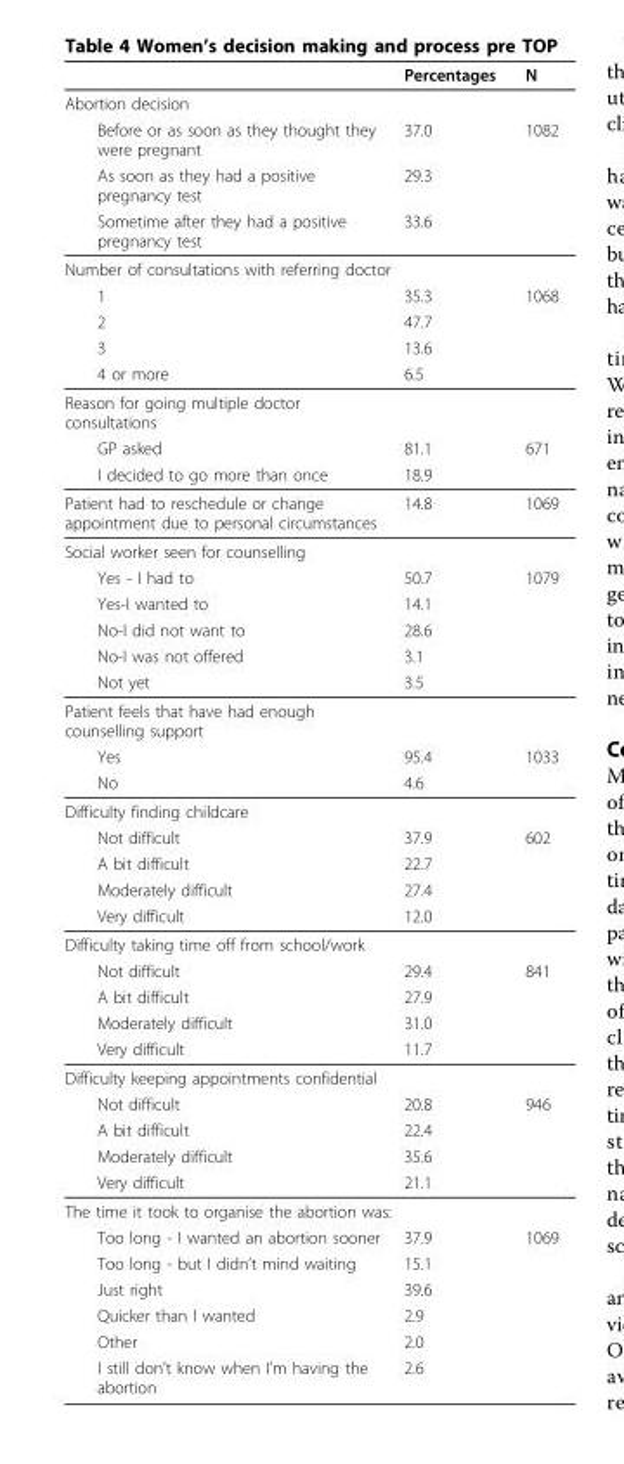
<table><thead><tr><td></td><td>Percentages</td><td>N</td></tr></thead><tbody><tr><td colspan="3">Abortion decision</td></tr><tr><td>Before or as soon as they thought they were pregnant</td><td>37.0</td><td>1082</td></tr><tr><td>As soon as they had a positive pregnancy test</td><td>29.3</td><td></td></tr><tr><td>Sometime after they had a positive pregnancy test</td><td>33.6</td><td></td></tr><tr><td colspan="3">Number of consultations with referring doctor</td></tr><tr><td>1</td><td>35.3</td><td>1068</td></tr><tr><td>2</td><td>47.7</td><td></td></tr><tr><td>3</td><td>13.6</td><td></td></tr><tr><td>4 or more</td><td>6.5</td><td></td></tr><tr><td colspan="3">Reason for going multiple doctor consultations</td></tr><tr><td>GP asked</td><td>81.1</td><td>671</td></tr><tr><td>I decided to go more than once</td><td>18.9</td><td></td></tr><tr><td>Patient had to reschedule or change appointment due to personal circumstances</td><td>14.8</td><td>1069</td></tr><tr><td colspan="3">Social worker seen for counselling</td></tr><tr><td>Yes - I had to</td><td>50.7</td><td>1079</td></tr><tr><td>Yes-I wanted to</td><td>14.1</td><td></td></tr><tr><td>No-I did not want to</td><td>28.6</td><td></td></tr><tr><td>No-I was not offered</td><td>3.1</td><td></td></tr><tr><td>Not yet</td><td>3.5</td><td></td></tr><tr><td colspan="3">Patient feels that have had enough counselling support</td></tr><tr><td>Yes</td><td>95.4</td><td>1033</td></tr><tr><td>No</td><td>4.6</td><td></td></tr><tr><td colspan="3">Difficulty finding childcare</td></tr><tr><td>Not difficult</td><td>37.9</td><td>602</td></tr><tr><td>A bit difficult</td><td>22.7</td><td></td></tr><tr><td>Moderately difficult</td><td>27.4</td><td></td></tr><tr><td>Very difficult</td><td>12.0</td><td></td></tr><tr><td colspan="3">Difficulty taking time off from school/work</td></tr><tr><td>Not difficult</td><td>29.4</td><td>841</td></tr><tr><td>A bit difficult</td><td>27.9</td><td></td></tr><tr><td>Moderately difficult</td><td>31.0</td><td></td></tr><tr><td>Very difficult</td><td>11.7</td><td></td></tr><tr><td colspan="3">Difficulty keeping appointments confidential</td></tr><tr><td>Not difficult</td><td>20.8</td><td>946</td></tr><tr><td>A bit difficult</td><td>22.4</td><td></td></tr><tr><td>Moderately difficult</td><td>35.6</td><td></td></tr><tr><td>Very difficult</td><td>21.1</td><td></td></tr><tr><td colspan="3">The time it took to organise the abortion was:</td></tr><tr><td>Too long - I wanted an abortion sooner</td><td>37.9</td><td>1069</td></tr><tr><td>Too long - but I didn’t mind waiting</td><td>15.1</td><td></td></tr><tr><td>Just right</td><td>39.6</td><td></td></tr><tr><td>Quicker than I wanted</td><td>2.9</td><td></td></tr><tr><td>Other</td><td>2.0</td><td></td></tr><tr><td>I still don’t know when I’m having the abortion</td><td>2.6</td><td></td></tr></tbody></table>